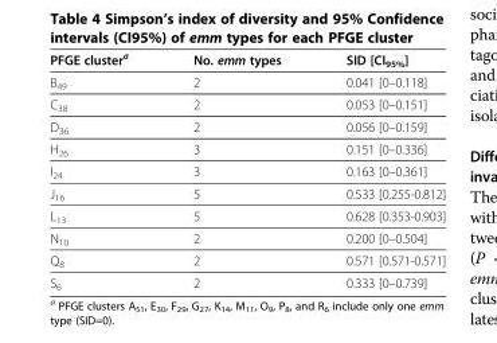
<table><thead><tr><td>PFGE cluster<sup>a</sup></td><td>No. emm types</td><td>SID [CI<sub>95%</sub>]</td></tr></thead><tbody><tr><td>B<sub>49</sub></td><td>2</td><td>0.041 [0–0.118]</td></tr><tr><td>C<sub>38</sub></td><td>2</td><td>0.053 [0–0.151]</td></tr><tr><td>D<sub>36</sub></td><td>2</td><td>0.056 [0–0.159]</td></tr><tr><td>H<sub>26</sub></td><td>3</td><td>0.151 [0–0.336]</td></tr><tr><td>I<sub>24</sub></td><td>3</td><td>0.163 [0–0.361]</td></tr><tr><td>J<sub>16</sub></td><td>5</td><td>0.533 [0.255-0.812]</td></tr><tr><td>L<sub>13</sub></td><td>5</td><td>0.628 [0.353-0.903]</td></tr><tr><td>N<sub>10</sub></td><td>2</td><td>0.200 [0–0.504]</td></tr><tr><td>Q<sub>8</sub></td><td>2</td><td>0.571 [0.571-0.571]</td></tr><tr><td>S<sub>6</sub></td><td>2</td><td>0.333 [0–0.739]</td></tr></tbody></table>